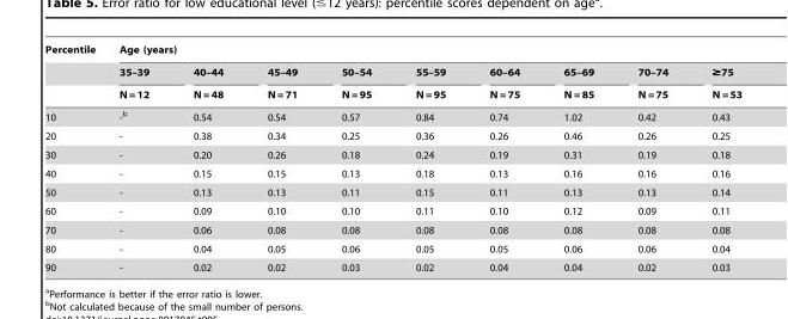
<table><thead><tr><td rowspan="3">Percentile</td><td colspan="9">Age (years)</td></tr><tr><td rowspan="2">35–39 N = 12</td><td rowspan="2">40–44 N = 48</td><td rowspan="2">45–49 N = 71</td><td rowspan="2">50–54 N = 95</td><td rowspan="2">55–59 N = 95</td><td rowspan="2">60–64 N = 75</td><td rowspan="2">65–69 N = 85</td><td rowspan="2">70–74 N = 75</td><td rowspan="2">≥75 N = 53</td></tr><tr></tr></thead><tbody><tr><td>10</td><td>-b</td><td>0.54</td><td>0.54</td><td>0.57</td><td>0.84</td><td>0.74</td><td>1.02</td><td>0.42</td><td>0.43</td></tr><tr><td>20</td><td>-</td><td>0.38</td><td>0.34</td><td>0.25</td><td>0.36</td><td>0.26</td><td>0.46</td><td>0.26</td><td>0.25</td></tr><tr><td>30</td><td>-</td><td>0.20</td><td>0.26</td><td>0.18</td><td>0.24</td><td>0.19</td><td>0.31</td><td>0.19</td><td>0.18</td></tr><tr><td>40</td><td>-</td><td>0.15</td><td>0.15</td><td>0.13</td><td>0.18</td><td>0.13</td><td>0.16</td><td>0.16</td><td>0.16</td></tr><tr><td>50</td><td>-</td><td>0.13</td><td>0.13</td><td>0.11</td><td>0.15</td><td>0.11</td><td>0.13</td><td>0.13</td><td>0.14</td></tr><tr><td>60</td><td>-</td><td>0.09</td><td>0.10</td><td>0.10</td><td>0.11</td><td>0.10</td><td>0.12</td><td>0.09</td><td>0.11</td></tr><tr><td>70</td><td>-</td><td>0.06</td><td>0.08</td><td>0.08</td><td>0.08</td><td>0.08</td><td>0.08</td><td>0.08</td><td>0.08</td></tr><tr><td>80</td><td>-</td><td>0.04</td><td>0.05</td><td>0.06</td><td>0.05</td><td>0.05</td><td>0.06</td><td>0.06</td><td>0.04</td></tr><tr><td>90</td><td>-</td><td>0.02</td><td>0.02</td><td>0.03</td><td>0.02</td><td>0.04</td><td>0.04</td><td>0.02</td><td>0.03</td></tr></tbody></table>